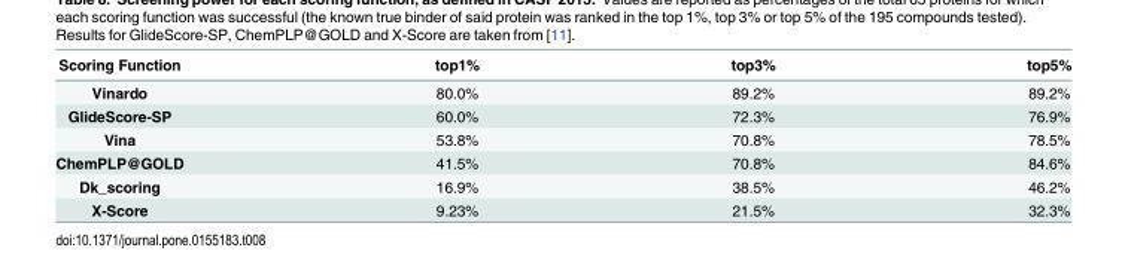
<table><thead><tr><td>Scoring Function</td><td>top1%</td><td>top3%</td><td>top5%</td></tr></thead><tbody><tr><td>Vinardo</td><td>80.0%</td><td>89.2%</td><td>89.2%</td></tr><tr><td>GlideScore-SP</td><td>60.0%</td><td>72.3%</td><td>76.9%</td></tr><tr><td>Vina</td><td>53.8%</td><td>70.8%</td><td>78.5%</td></tr><tr><td>ChemPLP@GOLD</td><td>41.5%</td><td>70.8%</td><td>84.6%</td></tr><tr><td>Dk_scoring</td><td>16.9%</td><td>38.5%</td><td>46.2%</td></tr><tr><td>X-Score</td><td>9.23%</td><td>21.5%</td><td>32.3%</td></tr></tbody></table>